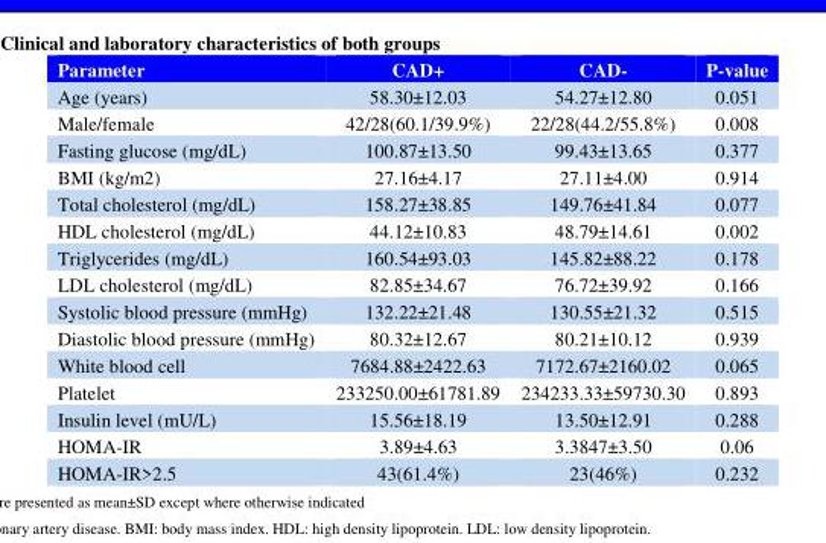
<table><thead><tr><td>Parameter</td><td>CAD+</td><td>CAD-</td><td>P-value</td></tr></thead><tbody><tr><td>Age (years)</td><td>58.30±12.03</td><td>54.27±12.80</td><td>0.051</td></tr><tr><td>Male/female</td><td>42/28(60.1/39.9%)</td><td>22/28(44.2/55.8%)</td><td>0.008</td></tr><tr><td>Fasting glucose (mg/dL)</td><td>100.87±13.50</td><td>99.43±13.65</td><td>0.377</td></tr><tr><td>BMI (kg/m2)</td><td>27.16±4.17</td><td>27.11±4.00</td><td>0.914</td></tr><tr><td>Total cholesterol (mg/dL)</td><td>158.27±38.85</td><td>149.76±41.84</td><td>0.077</td></tr><tr><td>HDL cholesterol (mg/dL)</td><td>44.12±10.83</td><td>48.79±14.61</td><td>0.002</td></tr><tr><td>Triglycerides (mg/dL)</td><td>160.54±93.03</td><td>145.82±88.22</td><td>0.178</td></tr><tr><td>LDL cholesterol (mg/dL)</td><td>82.85±34.67</td><td>76.72±39.92</td><td>0.166</td></tr><tr><td>Systolic blood pressure (mmHg)</td><td>132.22±21.48</td><td>130.55±21.32</td><td>0.515</td></tr><tr><td>Diastolic blood pressure (mmHg)</td><td>80.32±12.67</td><td>80.21±10.12</td><td>0.939</td></tr><tr><td>White blood cell</td><td>7684.88±2422.63</td><td>7172.67±2160.02</td><td>0.065</td></tr><tr><td>Platelet</td><td>233250.00±61781.89</td><td>234233.33±59730.30</td><td>0.893</td></tr><tr><td>Insulin level (mU/L)</td><td>15.56±18.19</td><td>13.50±12.91</td><td>0.288</td></tr><tr><td>HOMA-IR</td><td>3.89±4.63</td><td>3.3847±3.50</td><td>0.06</td></tr><tr><td>HOMA-IR&gt;2.5</td><td>43(61.4%)</td><td>23(46%)</td><td>0.232</td></tr></tbody></table>